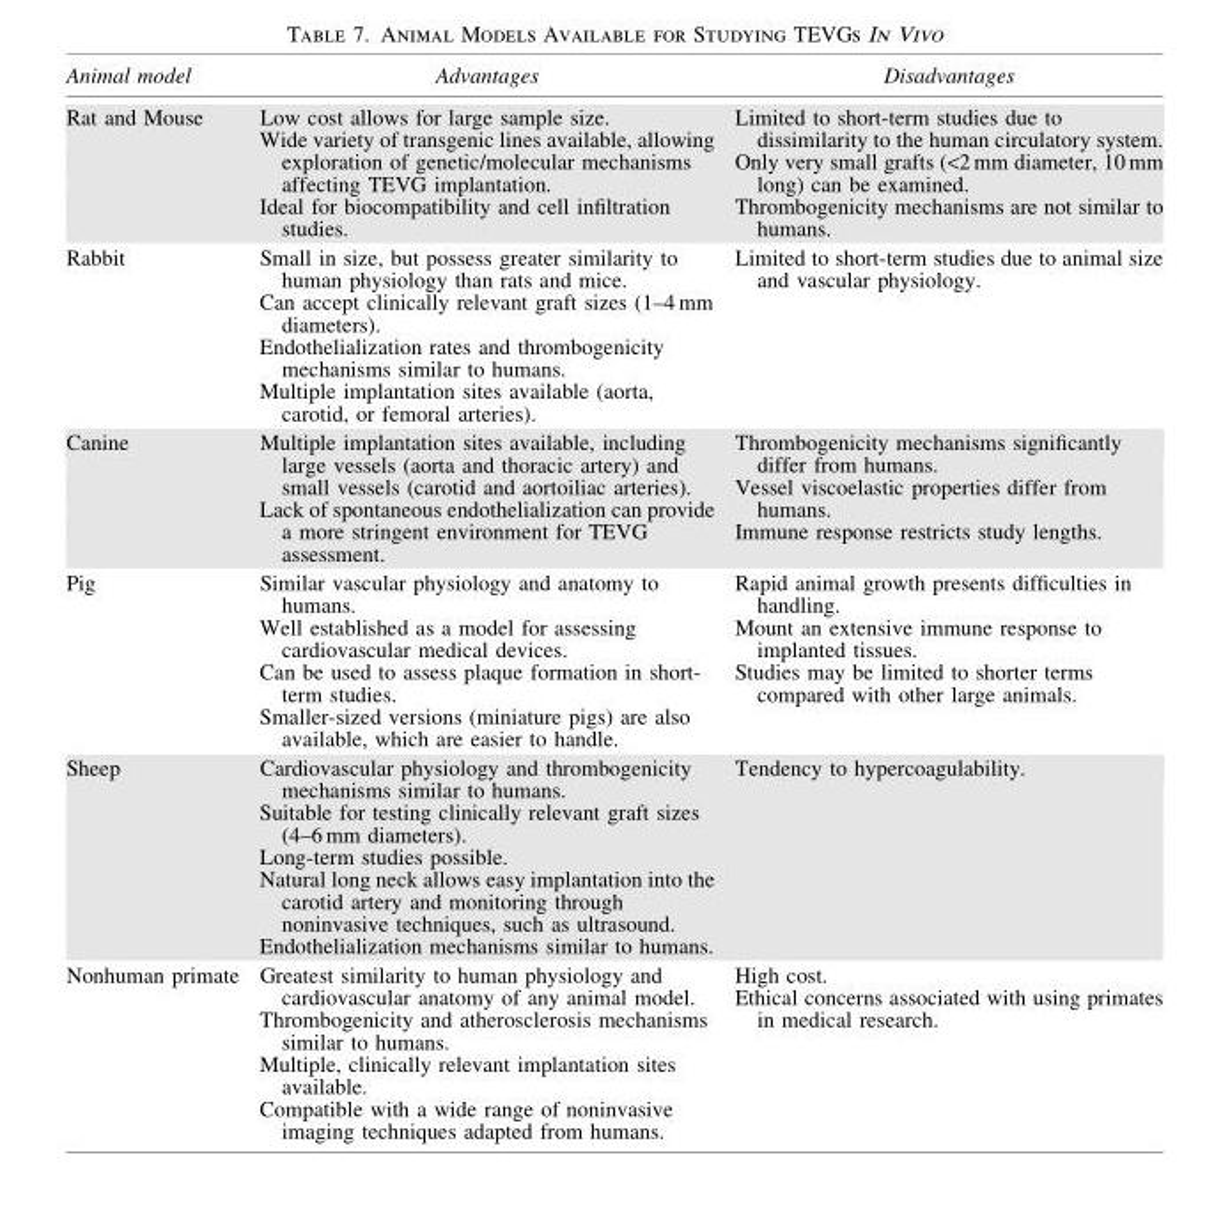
<table><thead><tr><td>Animal model</td><td>Advantages</td><td>Disadvantages</td></tr></thead><tbody><tr><td>Rat and Mouse</td><td>Low cost allows for large sample size. Wide variety of transgenic lines available, allowing exploration of genetic/molecular mechanisms affecting TEVG implantation. Ideal for biocompatibility and cell infiltration studies.</td><td>Limited to short-term studies due to dissimilarity to the human circulatory system. Only very small grafts (&lt;2 mm diameter, 10 mm long) can be examined. Thrombogenicity mechanisms are not similar to humans.</td></tr><tr><td>Rabbit</td><td>Small in size, but possess greater similarity to human physiology than rats and mice. Can accept clinically relevant graft sizes (1–4 mm diameters). Endothelialization rates and thrombogenicity mechanisms similar to humans. Multiple implantation sites available (aorta, carotid, or femoral arteries).</td><td>Limited to short-term studies due to animal size and vascular physiology.</td></tr><tr><td>Canine</td><td>Multiple implantation sites available, including large vessels (aorta and thoracic artery) and small vessels (carotid and aortoiliac arteries). Lack of spontaneous endothelialization can provide a more stringent environment for TEVG assessment.</td><td>Thrombogenicity mechanisms significantly differ from humans. Vessel viscoelastic properties differ from humans. Immune response restricts study lengths.</td></tr><tr><td>Pig</td><td>Similar vascular physiology and anatomy to humans. Well established as a model for assessing cardiovascular medical devices. Can be used to assess plaque formation in short- term studies. Smaller-sized versions (miniature pigs) are also available, which are easier to handle.</td><td>Rapid animal growth presents difficulties in handling. Mount an extensive immune response to implanted tissues. Studies may be limited to shorter terms compared with other large animals.</td></tr><tr><td>Sheep</td><td>Cardiovascular physiology and thrombogenicity mechanisms similar to humans. Suitable for testing clinically relevant graft sizes (4–6 mm diameters). Long-term studies possible. Natural long neck allows easy implantation into the carotid artery and monitoring through noninvasive techniques, such as ultrasound. Endothelialization mechanisms similar to humans.</td><td>Tendency to hypercoagulability.</td></tr><tr><td>Nonhuman primate</td><td>Greatest similarity to human physiology and cardiovascular anatomy of any animal model. Thrombogenicity and atherosclerosis mechanisms similar to humans. Multiple, clinically relevant implantation sites available. Compatible with a wide range of noninvasive imaging techniques adapted from humans.</td><td>High cost. Ethical concerns associated with using primates in medical research.</td></tr></tbody></table>